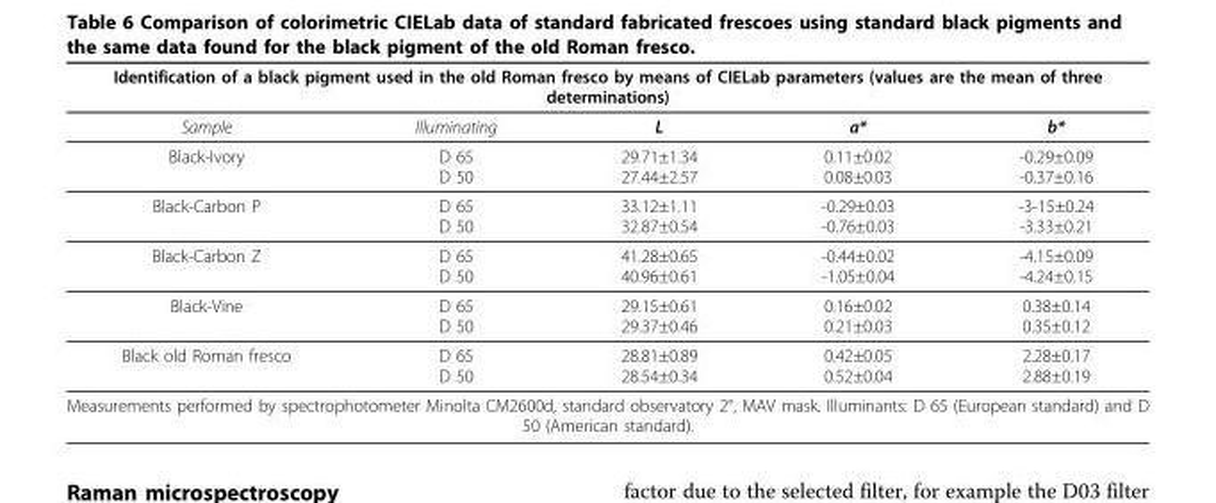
<table><thead><tr><td colspan="5">Identification of a black pigment used in the old Roman fresco by means of CIELab parameters (values are the mean of three determinations)</td></tr><tr><td>Sample</td><td>Illuminating</td><td>L</td><td>a*</td><td>b*</td></tr></thead><tbody><tr><td>Black-Ivory</td><td>D 65 D 50</td><td>29.71±1.34 27.44±2.57</td><td>0.11±0.02 0.08±0.03</td><td>-0.29±0.09 -0.37±0.16</td></tr><tr><td>Black-Carbon P</td><td>D 65 D 50</td><td>33.12±1.11 32.87±0.54</td><td>-0.29±0.03 -0.76±0.03</td><td>-3-15±0.24 -3.33±0.21</td></tr><tr><td>Black-Carbon Z</td><td>D 65 D 50</td><td>41.28±0.65 40.96±0.61</td><td>-0.44±0.02 -1.05±0.04</td><td>-4.15±0.09 -4.24±0.15</td></tr><tr><td>Black-Vine</td><td>D 65 D 50</td><td>29.15±0.61 29.37±0.46</td><td>0.16±0.02 0.21±0.03</td><td>0.38±0.14 0.35±0.12</td></tr><tr><td>Black old Roman fresco</td><td>D 65 D 50</td><td>28.81±0.89 28.54±0.34</td><td>0.42±0.05 0.52±0.04</td><td>2.28±0.17 2.88±0.19</td></tr><tr><td colspan="5">Measurements performed by spectrophotometer Minolta CM2600d, standard observatory 2°, MAV mask. Illuminants: D 65 (European standard) and D 50 (American standard).</td></tr></tbody></table>